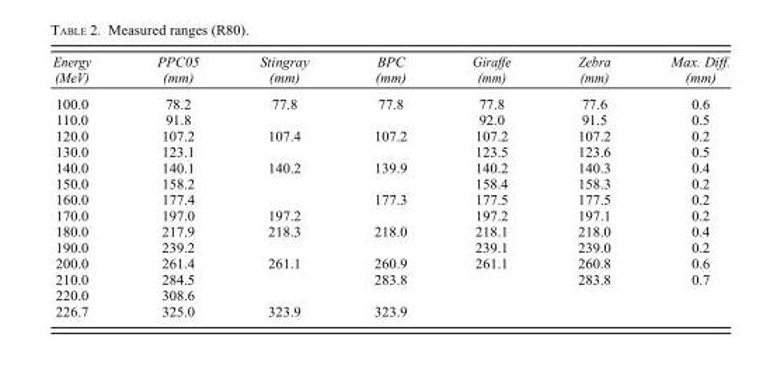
<table><thead><tr><td>Energy (MeV)</td><td>PPC05 (mm)</td><td>Stingray (mm)</td><td>BPC (mm)</td><td>Giraffe (mm)</td><td>Zebra (mm)</td><td>Max. Diff. (mm)</td></tr></thead><tbody><tr><td>100.0</td><td>78.2</td><td>77.8</td><td>77.8</td><td>77.8</td><td>77.6</td><td>0.6</td></tr><tr><td>110.0</td><td>91.8</td><td></td><td></td><td>92.0</td><td>91.5</td><td>0.5</td></tr><tr><td>120.0</td><td>107.2</td><td>107.4</td><td>107.2</td><td>107.2</td><td>107.2</td><td>0.2</td></tr><tr><td>130.0</td><td>123.1</td><td></td><td></td><td>123.5</td><td>123.6</td><td>0.5</td></tr><tr><td>140.0</td><td>140.1</td><td>140.2</td><td>139.9</td><td>140.2</td><td>140.3</td><td>0.4</td></tr><tr><td>150.0</td><td>158.2</td><td></td><td></td><td>158.4</td><td>158.3</td><td>0.2</td></tr><tr><td>160.0</td><td>177.4</td><td></td><td>177.3</td><td>177.5</td><td>177.5</td><td>0.2</td></tr><tr><td>170.0</td><td>197.0</td><td>197.2</td><td></td><td>197.2</td><td>197.1</td><td>0.2</td></tr><tr><td>180.0</td><td>217.9</td><td>218.3</td><td>218.0</td><td>218.1</td><td>218.0</td><td>0.4</td></tr><tr><td>190.0</td><td>239.2</td><td></td><td></td><td>239.1</td><td>239.0</td><td>0.2</td></tr><tr><td>200.0</td><td>261.4</td><td>261.1</td><td>260.9</td><td>261.1</td><td>260.8</td><td>0.6</td></tr><tr><td>210.0</td><td>284.5</td><td></td><td>283.8</td><td></td><td>283.8</td><td>0.7</td></tr><tr><td>220.0</td><td>308.6</td><td></td><td></td><td></td><td></td><td></td></tr><tr><td>226.7</td><td>325.0</td><td>323.9</td><td>323.9</td><td></td><td></td><td></td></tr></tbody></table>